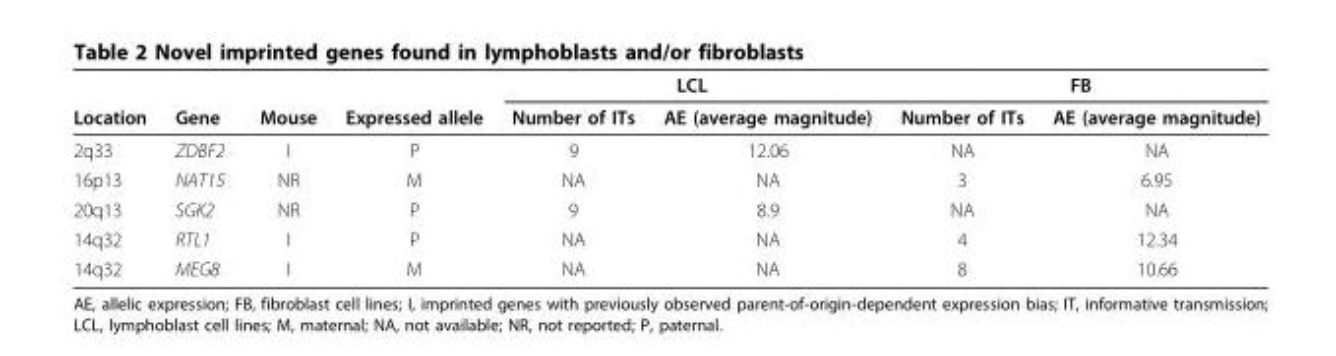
<table><thead><tr><td rowspan="2">Location</td><td rowspan="2">Gene</td><td rowspan="2">Mouse</td><td rowspan="2">Expressed allele</td><td colspan="2">LCL</td><td colspan="2">FB</td></tr><tr><td>Number of ITs</td><td>AE (average magnitude)</td><td>Number of ITs</td><td>AE (average magnitude)</td></tr></thead><tbody><tr><td>2q33</td><td>ZDBF2</td><td>I</td><td>P</td><td>9</td><td>12.06</td><td>NA</td><td>NA</td></tr><tr><td>16p13</td><td>NAT15</td><td>NR</td><td>M</td><td>NA</td><td>NA</td><td>3</td><td>6.95</td></tr><tr><td>20q13</td><td>SGK2</td><td>NR</td><td>P</td><td>9</td><td>8.9</td><td>NA</td><td>NA</td></tr><tr><td>14q32</td><td>RTL1</td><td>I</td><td>P</td><td>NA</td><td>NA</td><td>4</td><td>12.34</td></tr><tr><td>14q32</td><td>MEG8</td><td>I</td><td>M</td><td>NA</td><td>NA</td><td>8</td><td>10.66</td></tr></tbody></table>